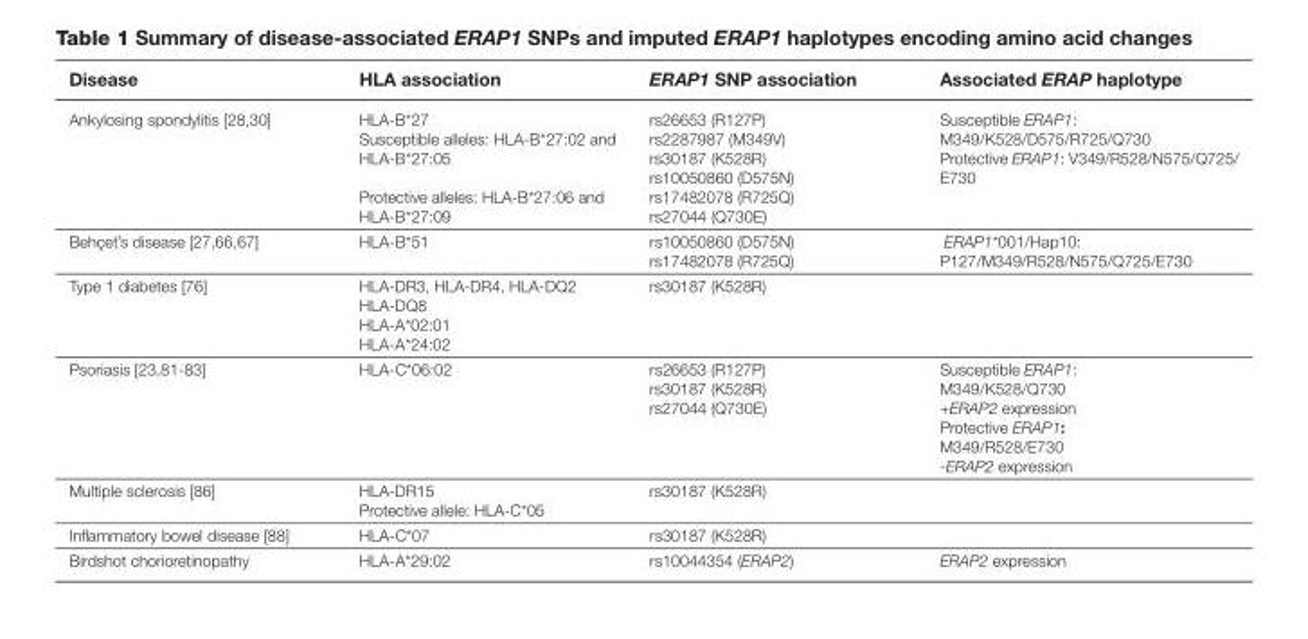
<table><thead><tr><td>Disease</td><td>HLA association</td><td>ERAP1 SNP association</td><td>Associated ERAP haplotype</td></tr></thead><tbody><tr><td>Ankylosing spondylitis [28,30]</td><td>HLA-B*27 Susceptible alleles: HLA-B*27:02 and HLA-B*27:05 Protective alleles: HLA-B*27:06 and HLA-B*27:09</td><td>rs26653 (R127P) rs2287987 (M349V) rs30187 (K528R) rs10050860 (D575N) rs17482078 (R725Q) rs27044 (Q730E)</td><td>Susceptible ERAP1: M349/K528/D575/R725/Q730 Protective ERAP1: V349/R528/N575/Q725/ E730</td></tr><tr><td>Behc¸ et’s disease [27,66,67]</td><td>HLA-B*51</td><td>rs10050860 (D575N) rs17482078 (R725Q)</td><td>ERAP1*001/Hap10: P127/M349/R528/N575/Q725/E730</td></tr><tr><td>Type 1 diabetes [76]</td><td>HLA-DR3, HLA-DR4, HLA-DQ2 HLA-DQ8 HLA-A*02:01 HLA-A*24:02</td><td>rs30187 (K528R)</td><td></td></tr><tr><td>Psoriasis [23,81-83]</td><td>HLA-C*06:02</td><td>rs26653 (R127P) rs30187 (K528R) rs27044 (Q730E)</td><td>Susceptible ERAP1: M349/K528/Q730 +ERAP2 expression Protective ERAP1: M349/R528/E730 -ERAP2 expression</td></tr><tr><td>Multiple sclerosis [86]</td><td>HLA-DR15 Protective allele: HLA-C*05</td><td>rs30187 (K528R)</td><td></td></tr><tr><td>Inflammatory bowel disease [88]</td><td>HLA-C*07</td><td>rs30187 (K528R)</td><td></td></tr><tr><td>Birdshot chorioretinopathy</td><td>HLA-A*29:02</td><td>rs10044354 (ERAP2)</td><td>ERAP2 expression</td></tr></tbody></table>